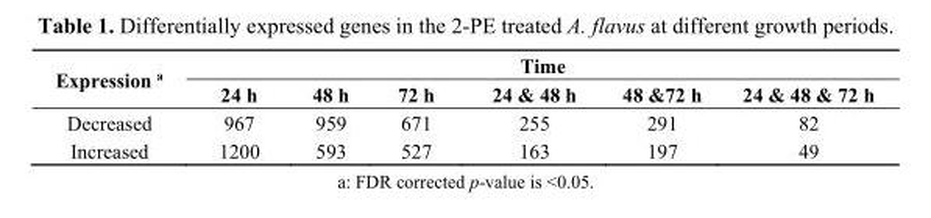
<table><thead><tr><td rowspan="2">Expression <sup>a</sup></td><td colspan="6">Time</td></tr><tr><td>24 h</td><td>48 h</td><td>72 h</td><td>24 &amp; 48 h</td><td>48 &amp;72 h</td><td>24 &amp; 48 &amp; 72 h</td></tr></thead><tbody><tr><td>Decreased</td><td>967</td><td>959</td><td>671</td><td>255</td><td>291</td><td>82</td></tr><tr><td>Increased</td><td>1200</td><td>593</td><td>527</td><td>163</td><td>197</td><td>49</td></tr></tbody></table>